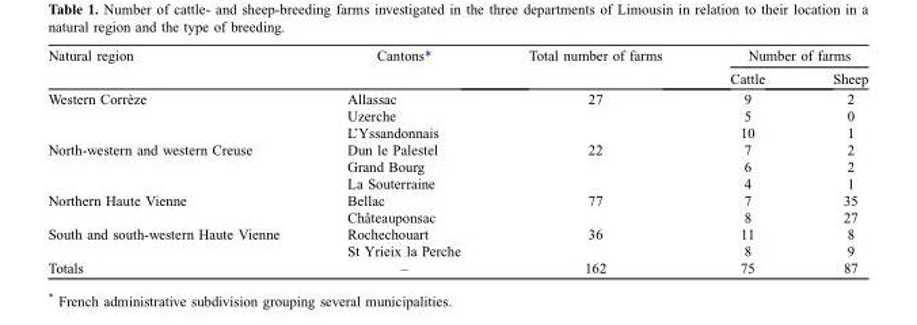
<table><thead><tr><td rowspan="2">Natural region</td><td rowspan="2">Cantons*</td><td rowspan="2">Total number of farms</td><td colspan="2">Number of farms</td></tr><tr><td>Cattle</td><td>Sheep</td></tr></thead><tbody><tr><td rowspan="3">Western Corrèze</td><td>Allassac</td><td rowspan="3">27</td><td>9</td><td>2</td></tr><tr><td>Uzerche</td><td>5</td><td>0</td></tr><tr><td>L’Yssandonnais</td><td>10</td><td>1</td></tr><tr><td rowspan="3">North-western and western Creuse</td><td>Dun le Palestel</td><td rowspan="3">22</td><td>7</td><td>2</td></tr><tr><td>Grand Bourg</td><td>6</td><td>2</td></tr><tr><td>La Souterraine</td><td>4</td><td>1</td></tr><tr><td rowspan="2">Northern Haute Vienne</td><td>Bellac</td><td rowspan="2">77</td><td>7</td><td>35</td></tr><tr><td>Châteauponsac</td><td>8</td><td>27</td></tr><tr><td rowspan="2">South and south-western Haute Vienne</td><td>Rochechouart</td><td rowspan="2">36</td><td>11</td><td>8</td></tr><tr><td>St Yrieix la Perche</td><td>8</td><td>9</td></tr><tr><td>Totals</td><td>–</td><td>162</td><td>75</td><td>87</td></tr></tbody></table>